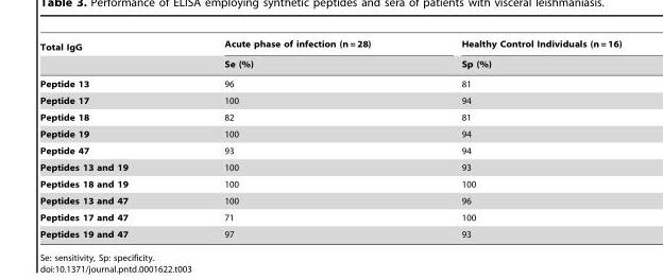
<table><thead><tr><td rowspan="2">Total IgG</td><td rowspan="2">Acute phase of infection (n = 28) Se (%)</td><td rowspan="2">Healthy Control Individuals (n = 16) Sp (%)</td></tr><tr></tr></thead><tbody><tr><td>Peptide 13</td><td>96</td><td>81</td></tr><tr><td>Peptide 17</td><td>100</td><td>94</td></tr><tr><td>Peptide 18</td><td>82</td><td>81</td></tr><tr><td>Peptide 19</td><td>100</td><td>94</td></tr><tr><td>Peptide 47</td><td>93</td><td>94</td></tr><tr><td>Peptides 13 and 19</td><td>100</td><td>93</td></tr><tr><td>Peptides 18 and 19</td><td>100</td><td>100</td></tr><tr><td>Peptides 13 and 47</td><td>100</td><td>96</td></tr><tr><td>Peptides 17 and 47</td><td>71</td><td>100</td></tr><tr><td>Peptides 19 and 47</td><td>97</td><td>93</td></tr></tbody></table>